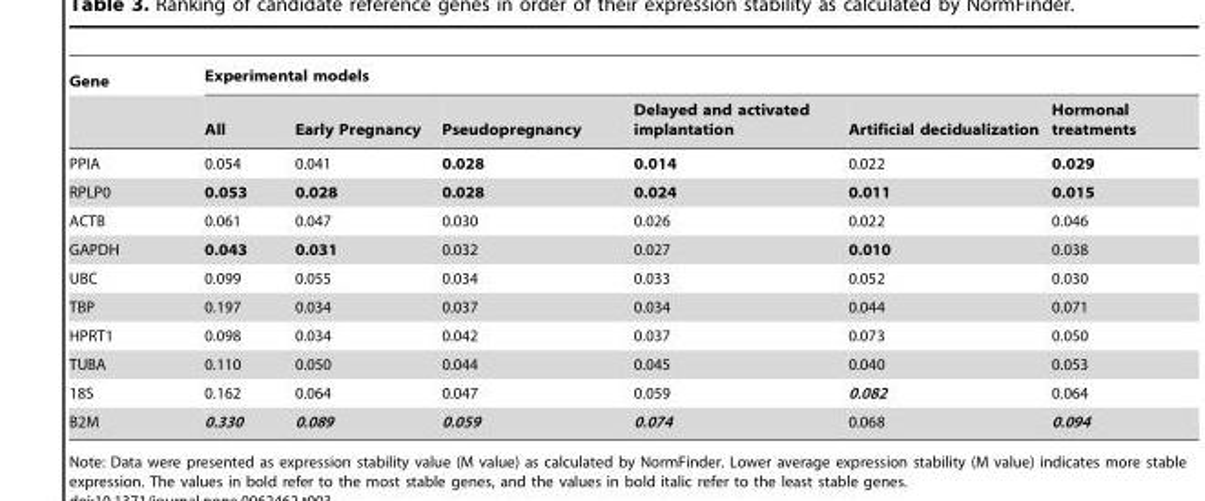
<table><thead><tr><td rowspan="2">Gene</td><td colspan="6">Experimental models</td></tr><tr><td>All</td><td>Early Pregnancy</td><td>Pseudopregnancy</td><td>Delayed and activated implantation</td><td>Artificial decidualization</td><td>Hormonal treatments</td></tr></thead><tbody><tr><td>PPIA</td><td>0.054</td><td>0.041</td><td>0.028</td><td>0.014</td><td>0.022</td><td>0.029</td></tr><tr><td>RPLP0</td><td>0.053</td><td>0.028</td><td>0.028</td><td>0.024</td><td>0.011</td><td>0.015</td></tr><tr><td>ACTB</td><td>0.061</td><td>0.047</td><td>0.030</td><td>0.026</td><td>0.022</td><td>0.046</td></tr><tr><td>GAPDH</td><td>0.043</td><td>0.031</td><td>0.032</td><td>0.027</td><td>0.010</td><td>0.038</td></tr><tr><td>UBC</td><td>0.099</td><td>0.055</td><td>0.034</td><td>0.033</td><td>0.052</td><td>0.030</td></tr><tr><td>TBP</td><td>0.197</td><td>0.034</td><td>0.037</td><td>0.034</td><td>0.044</td><td>0.071</td></tr><tr><td>HPRT1</td><td>0.098</td><td>0.034</td><td>0.042</td><td>0.037</td><td>0.073</td><td>0.050</td></tr><tr><td>TUBA</td><td>0.110</td><td>0.050</td><td>0.044</td><td>0.045</td><td>0.040</td><td>0.053</td></tr><tr><td>18S</td><td>0.162</td><td>0.064</td><td>0.047</td><td>0.059</td><td>0.082</td><td>0.064</td></tr><tr><td>B2M</td><td>0.330</td><td>0.089</td><td>0.059</td><td>0.074</td><td>0.068</td><td>0.094</td></tr></tbody></table>